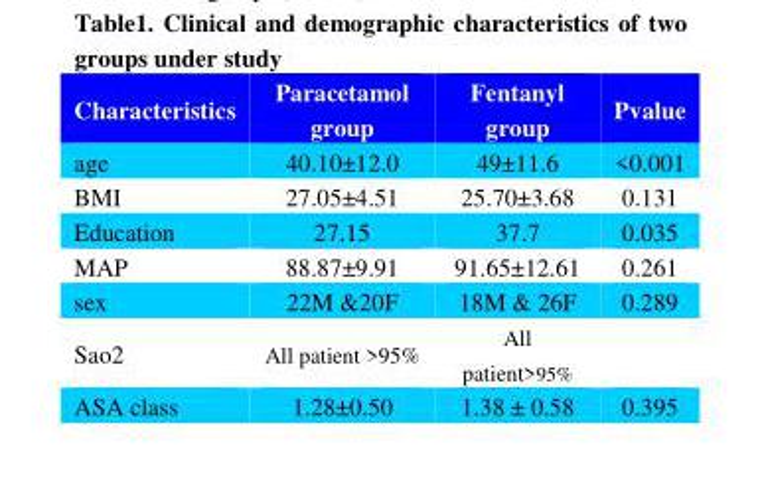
<table><thead><tr><td>Pvalue</td><td>Fentanyl group</td><td>Paracetamol group</td><td>Characteristics</td></tr></thead><tbody><tr><td>&lt;0.001</td><td>49±11.6</td><td>40.10±12.0</td><td>age</td></tr><tr><td>0.131</td><td>25.70±3.68</td><td>27.05±4.51</td><td>BMI</td></tr><tr><td>0.035</td><td>37.7</td><td>27.15</td><td>Education</td></tr><tr><td>0.261</td><td>91.65±12.61</td><td>88.87±9.91</td><td>MAP</td></tr><tr><td rowspan="2">0.289</td><td>18M &amp; 26F</td><td>22M &amp;20F</td><td>sex</td></tr><tr><td>All patient&gt;95%</td><td>All patient &gt;95%</td><td>Sao2</td></tr><tr><td>0.395</td><td>1.38 ± 0.58</td><td>1.28±0.50</td><td>ASA class</td></tr></tbody></table>